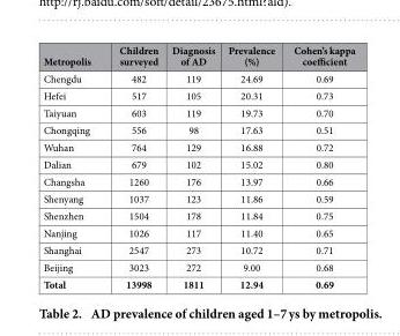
<table><thead><tr><td>Metropolis</td><td>Children surveyed</td><td>Diagnosis of AD</td><td>Prevalence (%)</td><td>Cohen’s kappa coefficient</td></tr></thead><tbody><tr><td>Chengdu</td><td>482</td><td>119</td><td>24.69</td><td>0.69</td></tr><tr><td>Hefei</td><td>517</td><td>105</td><td>20.31</td><td>0.73</td></tr><tr><td>Taiyuan</td><td>603</td><td>119</td><td>19.73</td><td>0.70</td></tr><tr><td>Chongqing</td><td>556</td><td>98</td><td>17.63</td><td>0.51</td></tr><tr><td>Wuhan</td><td>764</td><td>129</td><td>16.88</td><td>0.72</td></tr><tr><td>Dalian</td><td>679</td><td>102</td><td>15.02</td><td>0.80</td></tr><tr><td>Changsha</td><td>1260</td><td>176</td><td>13.97</td><td>0.66</td></tr><tr><td>Shenyang</td><td>1037</td><td>123</td><td>11.86</td><td>0.59</td></tr><tr><td>Shenzhen</td><td>1504</td><td>178</td><td>11.84</td><td>0.75</td></tr><tr><td>Nanjing</td><td>1026</td><td>117</td><td>11.40</td><td>0.65</td></tr><tr><td>Shanghai</td><td>2547</td><td>273</td><td>10.72</td><td>0.71</td></tr><tr><td>Beijing</td><td>3023</td><td>272</td><td>9.00</td><td>0.68</td></tr><tr><td>Total</td><td>13998</td><td>1811</td><td>12.94</td><td>0.69</td></tr></tbody></table>